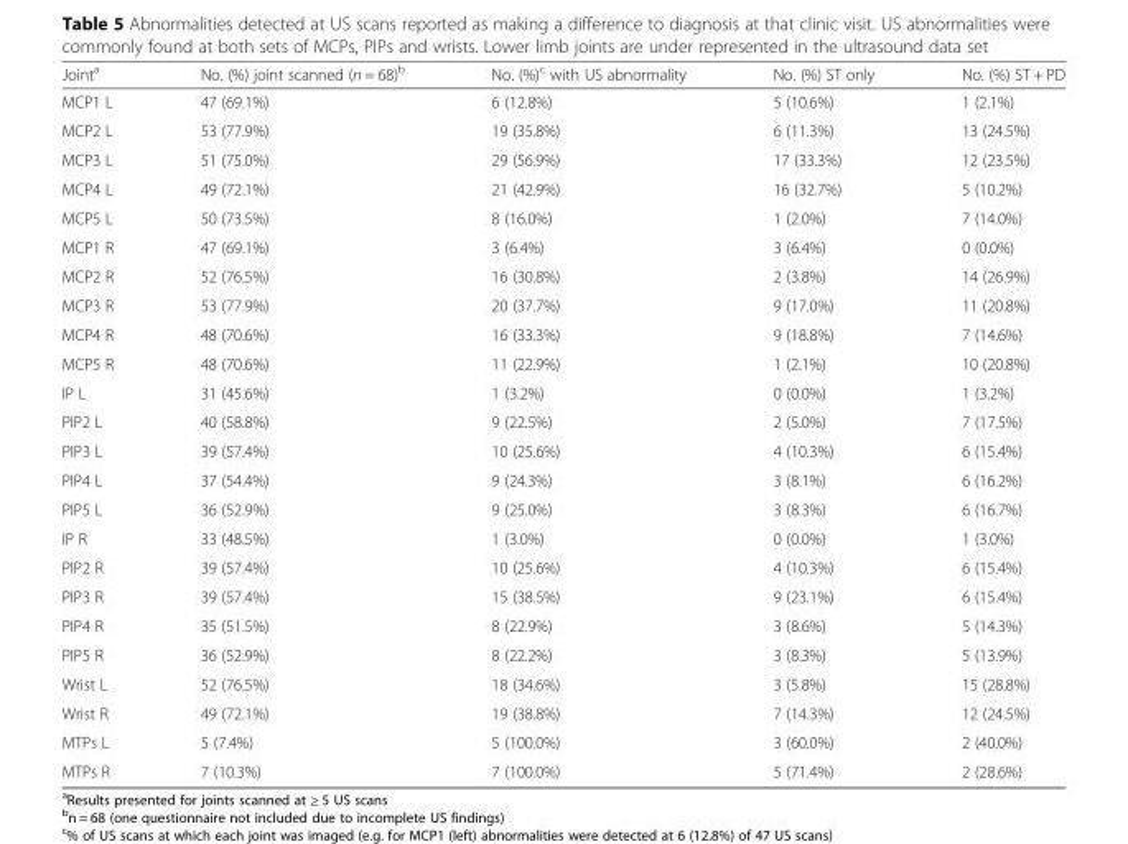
<table><thead><tr><td>Joint<sup>a</sup></td><td>No. (%) joint scanned (n = 68)<sup>b</sup></td><td>No. (%)<sup>c</sup> with US abnormality</td><td>No. (%) ST only</td><td>No. (%) ST + PD</td></tr></thead><tbody><tr><td>MCP1 L</td><td>47 (69.1%)</td><td>6 (12.8%)</td><td>5 (10.6%)</td><td>1 (2.1%)</td></tr><tr><td>MCP2 L</td><td>53 (77.9%)</td><td>19 (35.8%)</td><td>6 (11.3%)</td><td>13 (24.5%)</td></tr><tr><td>MCP3 L</td><td>51 (75.0%)</td><td>29 (56.9%)</td><td>17 (33.3%)</td><td>12 (23.5%)</td></tr><tr><td>MCP4 L</td><td>49 (72.1%)</td><td>21 (42.9%)</td><td>16 (32.7%)</td><td>5 (10.2%)</td></tr><tr><td>MCP5 L</td><td>50 (73.5%)</td><td>8 (16.0%)</td><td>1 (2.0%)</td><td>7 (14.0%)</td></tr><tr><td>MCP1 R</td><td>47 (69.1%)</td><td>3 (6.4%)</td><td>3 (6.4%)</td><td>0 (0.0%)</td></tr><tr><td>MCP2 R</td><td>52 (76.5%)</td><td>16 (30.8%)</td><td>2 (3.8%)</td><td>14 (26.9%)</td></tr><tr><td>MCP3 R</td><td>53 (77.9%)</td><td>20 (37.7%)</td><td>9 (17.0%)</td><td>11 (20.8%)</td></tr><tr><td>MCP4 R</td><td>48 (70.6%)</td><td>16 (33.3%)</td><td>9 (18.8%)</td><td>7 (14.6%)</td></tr><tr><td>MCP5 R</td><td>48 (70.6%)</td><td>11 (22.9%)</td><td>1 (2.1%)</td><td>10 (20.8%)</td></tr><tr><td>IP L</td><td>31 (45.6%)</td><td>1 (3.2%)</td><td>0 (0.0%)</td><td>1 (3.2%)</td></tr><tr><td>PIP2 L</td><td>40 (58.8%)</td><td>9 (22.5%)</td><td>2 (5.0%)</td><td>7 (17.5%)</td></tr><tr><td>PIP3 L</td><td>39 (57.4%)</td><td>10 (25.6%)</td><td>4 (10.3%)</td><td>6 (15.4%)</td></tr><tr><td>PIP4 L</td><td>37 (54.4%)</td><td>9 (24.3%)</td><td>3 (8.1%)</td><td>6 (16.2%)</td></tr><tr><td>PIP5 L</td><td>36 (52.9%)</td><td>9 (25.0%)</td><td>3 (8.3%)</td><td>6 (16.7%)</td></tr><tr><td>IP R</td><td>33 (48.5%)</td><td>1 (3.0%)</td><td>0 (0.0%)</td><td>1 (3.0%)</td></tr><tr><td>PIP2 R</td><td>39 (57.4%)</td><td>10 (25.6%)</td><td>4 (10.3%)</td><td>6 (15.4%)</td></tr><tr><td>PIP3 R</td><td>39 (57.4%)</td><td>15 (38.5%)</td><td>9 (23.1%)</td><td>6 (15.4%)</td></tr><tr><td>PIP4 R</td><td>35 (51.5%)</td><td>8 (22.9%)</td><td>3 (8.6%)</td><td>5 (14.3%)</td></tr><tr><td>PIP5 R</td><td>36 (52.9%)</td><td>8 (22.2%)</td><td>3 (8.3%)</td><td>5 (13.9%)</td></tr><tr><td>Wrist L</td><td>52 (76.5%)</td><td>18 (34.6%)</td><td>3 (5.8%)</td><td>15 (28.8%)</td></tr><tr><td>Wrist R</td><td>49 (72.1%)</td><td>19 (38.8%)</td><td>7 (14.3%)</td><td>12 (24.5%)</td></tr><tr><td>MTPs L</td><td>5 (7.4%)</td><td>5 (100.0%)</td><td>3 (60.0%)</td><td>2 (40.0%)</td></tr><tr><td>MTPs R</td><td>7 (10.3%)</td><td>7 (100.0%)</td><td>5 (71.4%)</td><td>2 (28.6%)</td></tr></tbody></table>